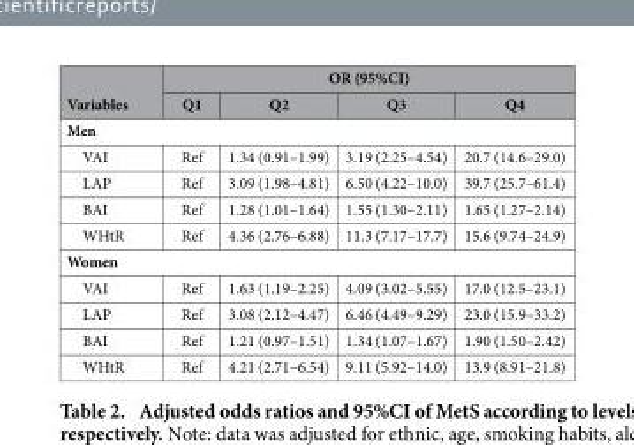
<table><thead><tr><td rowspan="2">Variables</td><td colspan="4">OR (95%CI)</td></tr><tr><td>Q1</td><td>Q2</td><td>Q3</td><td>Q4</td></tr></thead><tbody><tr><td colspan="5">Men</td></tr><tr><td>VAI</td><td>Ref</td><td>1.34 (0.91–1.99)</td><td>3.19 (2.25–4.54)</td><td>20.7 (14.6–29.0)</td></tr><tr><td>LAP</td><td>Ref</td><td>3.09 (1.98–4.81)</td><td>6.50 (4.22–10.0)</td><td>39.7 (25.7–61.4)</td></tr><tr><td>BAI</td><td>Ref</td><td>1.28 (1.01–1.64)</td><td>1.55 (1.30–2.11)</td><td>1.65 (1.27–2.14)</td></tr><tr><td>WHtR</td><td>Ref</td><td>4.36 (2.76–6.88)</td><td>11.3 (7.17–17.7)</td><td>15.6 (9.74–24.9)</td></tr><tr><td colspan="5">Women</td></tr><tr><td>VAI</td><td>Ref</td><td>1.63 (1.19–2.25)</td><td>4.09 (3.02–5.55)</td><td>17.0 (12.5–23.1)</td></tr><tr><td>LAP</td><td>Ref</td><td>3.08 (2.12–4.47)</td><td>6.46 (4.49–9.29)</td><td>23.0 (15.9–33.2)</td></tr><tr><td>BAI</td><td>Ref</td><td>1.21 (0.97–1.51)</td><td>1.34 (1.07–1.67)</td><td>1.90 (1.50–2.42)</td></tr><tr><td>WHtR</td><td>Ref</td><td>4.21 (2.71–6.54)</td><td>9.11 (5.92–14.0)</td><td>13.9 (8.91–21.8)</td></tr></tbody></table>